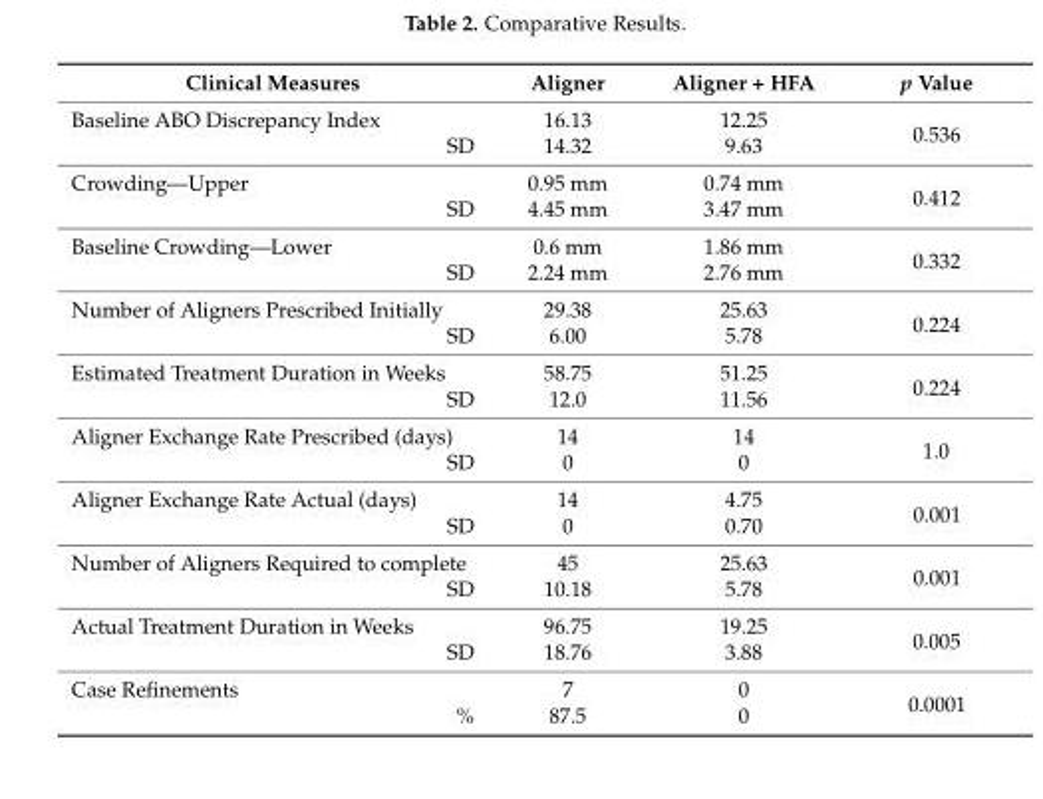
<table><thead><tr><td>Clinical Measures</td><td>Aligner</td><td>Aligner + HFA</td><td>p Value</td></tr></thead><tbody><tr><td>Baseline ABO Discrepancy Index</td><td>16.13</td><td>12.25</td><td rowspan="2">0.536</td></tr><tr><td>SD</td><td>14.32</td><td>9.63</td></tr><tr><td>Crowding—Upper</td><td>0.95 mm</td><td>0.74 mm</td><td rowspan="2">0.412</td></tr><tr><td>SD</td><td>4.45 mm</td><td>3.47 mm</td></tr><tr><td>Baseline Crowding—Lower</td><td>0.6 mm</td><td>1.86 mm</td><td rowspan="2">0.332</td></tr><tr><td>SD</td><td>2.24 mm</td><td>2.76 mm</td></tr><tr><td>Number of Aligners Prescribed Initially</td><td>29.38</td><td>25.63</td><td rowspan="2">0.224</td></tr><tr><td>SD</td><td>6.00</td><td>5.78</td></tr><tr><td>Estimated Treatment Duration in Weeks</td><td>58.75</td><td>51.25</td><td rowspan="2">0.224</td></tr><tr><td>SD</td><td>12.0</td><td>11.56</td></tr><tr><td>Aligner Exchange Rate Prescribed (days)</td><td>14</td><td>14</td><td rowspan="2">1.0</td></tr><tr><td>SD</td><td>0</td><td>0</td></tr><tr><td>Aligner Exchange Rate Actual (days)</td><td>14</td><td>4.75</td><td rowspan="2">0.001</td></tr><tr><td>SD</td><td>0</td><td>0.70</td></tr><tr><td>Number of Aligners Required to complete</td><td>45</td><td>25.63</td><td rowspan="2">0.001</td></tr><tr><td>SD</td><td>10.18</td><td>5.78</td></tr><tr><td>Actual Treatment Duration in Weeks</td><td>96.75</td><td>19.25</td><td rowspan="2">0.005</td></tr><tr><td>SD</td><td>18.76</td><td>3.88</td></tr><tr><td>Case Refinements</td><td>7</td><td>0</td><td rowspan="2">0.0001</td></tr><tr><td>%</td><td>87.5</td><td>0</td></tr></tbody></table>